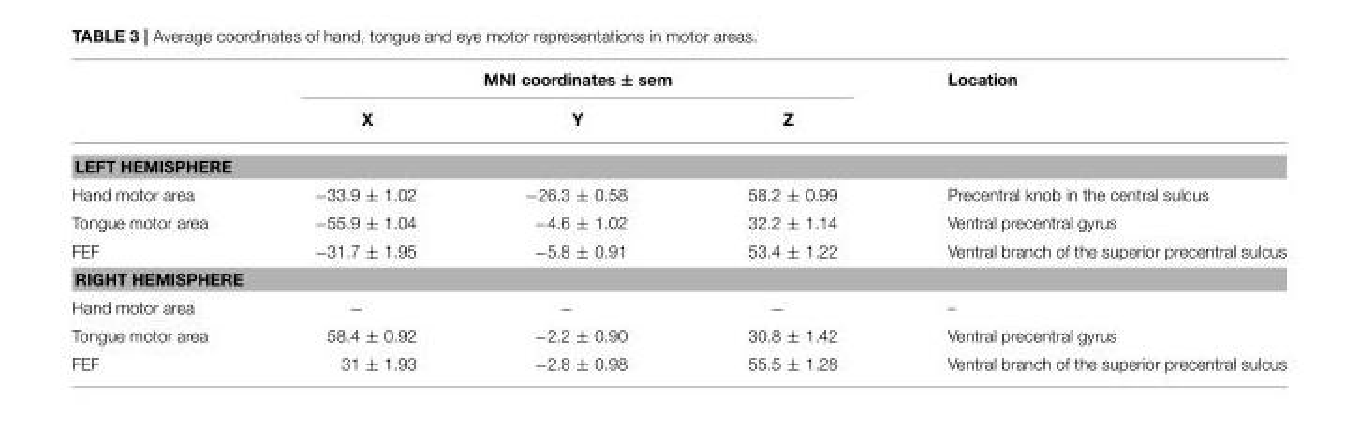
<table><thead><tr><td rowspan="2"></td><td colspan="3">MNI coordinates ± sem</td><td rowspan="2">Location</td></tr><tr><td>X</td><td>Y</td><td>Z</td></tr></thead><tbody><tr><td colspan="5">LEFT HEMISPHERE</td></tr><tr><td>Hand motor area</td><td>−33.9 ± 1.02</td><td>−26.3 ± 0.58</td><td>58.2 ± 0.99</td><td>Precentral knob in the central sulcus</td></tr><tr><td>Tongue motor area</td><td>−55.9 ± 1.04</td><td>−4.6 ± 1.02</td><td>32.2 ± 1.14</td><td>Ventral precentral gyrus</td></tr><tr><td>FEF</td><td>−31.7 ± 1.95</td><td>−5.8 ± 0.91</td><td>53.4 ± 1.22</td><td>Ventral branch of the superior precentral sulcus</td></tr><tr><td colspan="5">RIGHT HEMISPHERE</td></tr><tr><td>Hand motor area</td><td>−</td><td>−</td><td>−</td><td>–</td></tr><tr><td>Tongue motor area</td><td>58.4 ± 0.92</td><td>−2.2 ± 0.90</td><td>30.8 ± 1.42</td><td>Ventral precentral gyrus</td></tr><tr><td>FEF</td><td>31 ± 1.93</td><td>−2.8 ± 0.98</td><td>55.5 ± 1.28</td><td>Ventral branch of the superior precentral sulcus</td></tr></tbody></table>